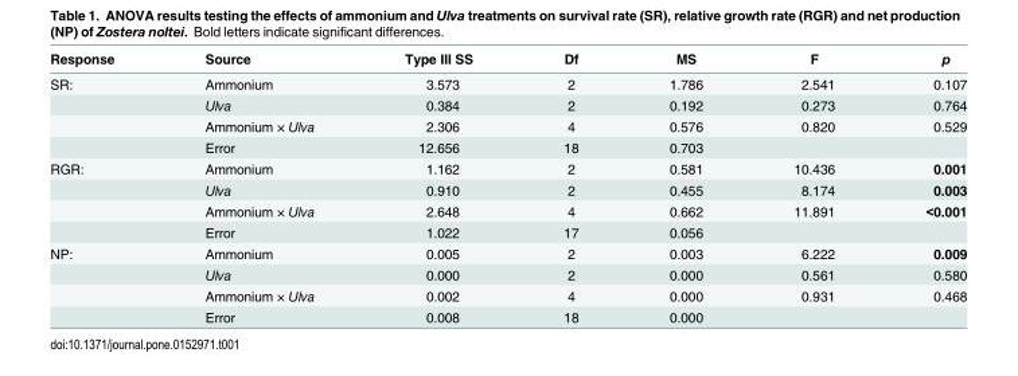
<table><thead><tr><td>Response</td><td>Source</td><td>Type III SS</td><td>Df</td><td>MS</td><td>F</td><td>p</td></tr></thead><tbody><tr><td rowspan="4">SR:</td><td>Ammonium</td><td>3.573</td><td>2</td><td>1.786</td><td>2.541</td><td>0.107</td></tr><tr><td>Ulva</td><td>0.384</td><td>2</td><td>0.192</td><td>0.273</td><td>0.764</td></tr><tr><td>Ammonium × Ulva</td><td>2.306</td><td>4</td><td>0.576</td><td>0.820</td><td>0.529</td></tr><tr><td>Error</td><td>12.656</td><td>18</td><td>0.703</td><td></td><td></td></tr><tr><td rowspan="4">RGR:</td><td>Ammonium</td><td>1.162</td><td>2</td><td>0.581</td><td>10.436</td><td>0.001</td></tr><tr><td>Ulva</td><td>0.910</td><td>2</td><td>0.455</td><td>8.174</td><td>0.003</td></tr><tr><td>Ammonium × Ulva</td><td>2.648</td><td>4</td><td>0.662</td><td>11.891</td><td>&lt;0.001</td></tr><tr><td>Error</td><td>1.022</td><td>17</td><td>0.056</td><td></td><td></td></tr><tr><td rowspan="4">NP:</td><td>Ammonium</td><td>0.005</td><td>2</td><td>0.003</td><td>6.222</td><td>0.009</td></tr><tr><td>Ulva</td><td>0.000</td><td>2</td><td>0.000</td><td>0.561</td><td>0.580</td></tr><tr><td>Ammonium × Ulva</td><td>0.002</td><td>4</td><td>0.000</td><td>0.931</td><td>0.468</td></tr><tr><td>Error</td><td>0.008</td><td>18</td><td>0.000</td><td></td><td></td></tr></tbody></table>